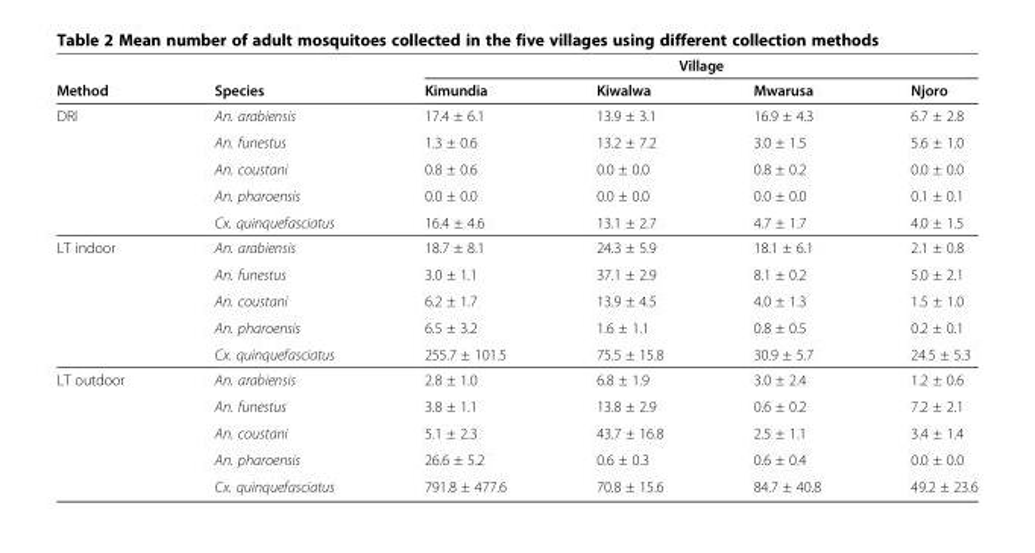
<table><thead><tr><td rowspan="2">Method</td><td rowspan="2">Species</td><td colspan="4">Village</td></tr><tr><td>Kimundia</td><td>Kiwalwa</td><td>Mwarusa</td><td>Njoro</td></tr></thead><tbody><tr><td rowspan="5">DRI</td><td>An. arabiensis</td><td>17.4 ± 6.1</td><td>13.9 ± 3.1</td><td>16.9 ± 4.3</td><td>6.7 ± 2.8</td></tr><tr><td>An. funestus</td><td>1.3 ± 0.6</td><td>13.2 ± 7.2</td><td>3.0 ± 1.5</td><td>5.6 ± 1.0</td></tr><tr><td>An. coustani</td><td>0.8 ± 0.6</td><td>0.0 ± 0.0</td><td>0.8 ± 0.2</td><td>0.0 ± 0.0</td></tr><tr><td>An. pharoensis</td><td>0.0 ± 0.0</td><td>0.0 ± 0.0</td><td>0.0 ± 0.0</td><td>0.1 ± 0.1</td></tr><tr><td>Cx. quinquefasciatus</td><td>16.4 ± 4.6</td><td>13.1 ± 2.7</td><td>4.7 ± 1.7</td><td>4.0 ± 1.5</td></tr><tr><td rowspan="5">LT indoor</td><td>An. arabiensis</td><td>18.7 ± 8.1</td><td>24.3 ± 5.9</td><td>18.1 ± 6.1</td><td>2.1 ± 0.8</td></tr><tr><td>An. funestus</td><td>3.0 ± 1.1</td><td>37.1 ± 2.9</td><td>8.1 ± 0.2</td><td>5.0 ± 2.1</td></tr><tr><td>An. coustani</td><td>6.2 ± 1.7</td><td>13.9 ± 4.5</td><td>4.0 ± 1.3</td><td>1.5 ± 1.0</td></tr><tr><td>An. pharoensis</td><td>6.5 ± 3.2</td><td>1.6 ± 1.1</td><td>0.8 ± 0.5</td><td>0.2 ± 0.1</td></tr><tr><td>Cx. quinquefasciatus</td><td>255.7 ± 101.5</td><td>75.5 ± 15.8</td><td>30.9 ± 5.7</td><td>24.5 ± 5.3</td></tr><tr><td rowspan="5">LT outdoor</td><td>An. arabiensis</td><td>2.8 ± 1.0</td><td>6.8 ± 1.9</td><td>3.0 ± 2.4</td><td>1.2 ± 0.6</td></tr><tr><td>An. funestus</td><td>3.8 ± 1.1</td><td>13.8 ± 2.9</td><td>0.6 ± 0.2</td><td>7.2 ± 2.1</td></tr><tr><td>An. coustani</td><td>5.1 ± 2.3</td><td>43.7 ± 16.8</td><td>2.5 ± 1.1</td><td>3.4 ± 1.4</td></tr><tr><td>An. pharoensis</td><td>26.6 ± 5.2</td><td>0.6 ± 0.3</td><td>0.6 ± 0.4</td><td>0.0 ± 0.0</td></tr><tr><td>Cx. quinquefasciatus</td><td>791.8 ± 477.6</td><td>70.8 ± 15.6</td><td>84.7 ± 40.8</td><td>49.2 ± 23.6</td></tr></tbody></table>